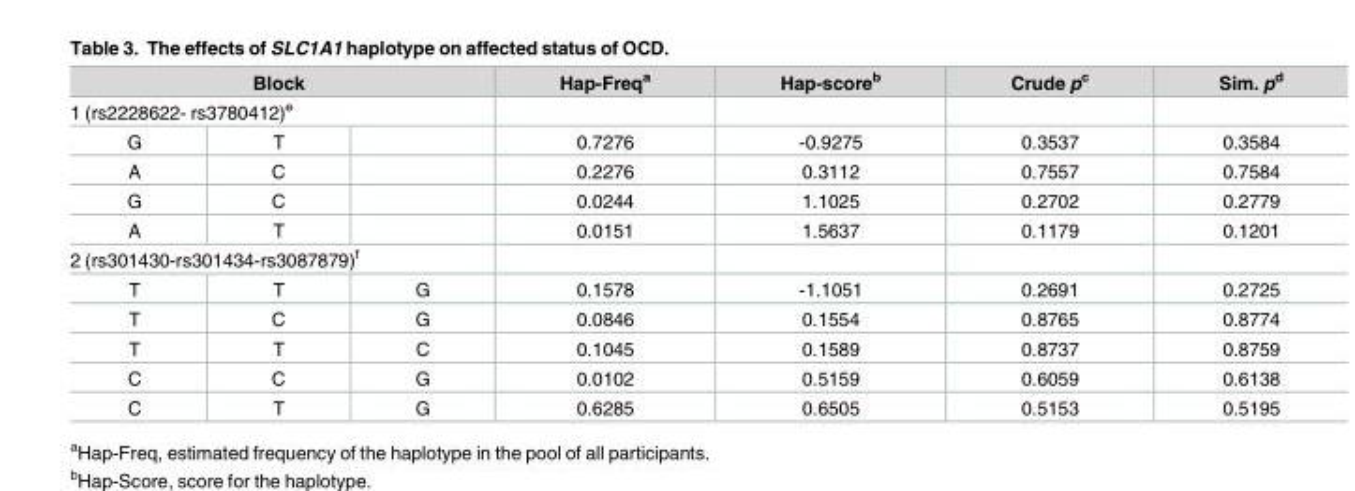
<table><thead><tr><td rowspan="2" colspan="3">Block 1 (rs2228622- rs3780412)<sup>e</sup></td><td rowspan="3">Hap-Freq<sup>a</sup> 0.7276</td><td rowspan="3">Hap-score<sup>b</sup> -0.9275</td><td rowspan="3">Crude p<sup>c</sup> 0.3537</td><td rowspan="3">Sim. p<sup>d</sup> 0.3584</td></tr><tr></tr><tr><td>G</td><td>T</td><td></td></tr></thead><tbody><tr><td>A</td><td>C</td><td></td><td>0.2276</td><td>0.3112</td><td>0.7557</td><td>0.7584</td></tr><tr><td>G</td><td>C</td><td></td><td>0.0244</td><td>1.1025</td><td>0.2702</td><td>0.2779</td></tr><tr><td>A</td><td>T</td><td></td><td>0.0151</td><td>1.5637</td><td>0.1179</td><td>0.1201</td></tr><tr><td colspan="7">2 (rs301430-rs301434-rs3087879)<sup>f</sup></td></tr><tr><td>T</td><td>T</td><td>G</td><td>0.1578</td><td>-1.1051</td><td>0.2691</td><td>0.2725</td></tr><tr><td>T</td><td>C</td><td>G</td><td>0.0846</td><td>0.1554</td><td>0.8765</td><td>0.8774</td></tr><tr><td>T</td><td>T</td><td>C</td><td>0.1045</td><td>0.1589</td><td>0.8737</td><td>0.8759</td></tr><tr><td>C</td><td>C</td><td>G</td><td>0.0102</td><td>0.5159</td><td>0.6059</td><td>0.6138</td></tr><tr><td>C</td><td>T</td><td>G</td><td>0.6285</td><td>0.6505</td><td>0.5153</td><td>0.5195</td></tr></tbody></table>